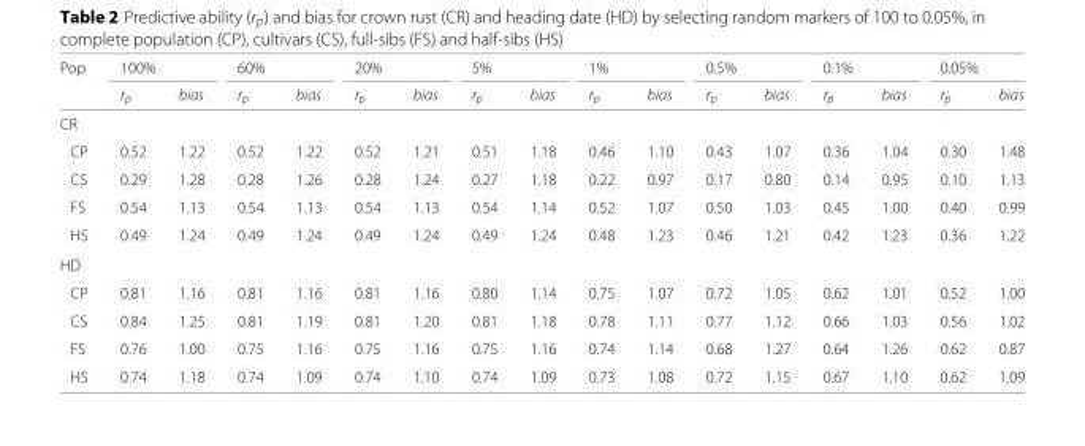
<table><thead><tr><td rowspan="2">Pop</td><td colspan="2">100%</td><td colspan="2">60%</td><td colspan="2">20%</td><td colspan="2">5%</td><td colspan="2">1%</td><td colspan="2">0.5%</td><td colspan="2">0.1%</td><td colspan="2">0.05%</td></tr><tr><td>r<sub>p</sub></td><td>bias</td><td>r<sub>p</sub></td><td>bias</td><td>r<sub>p</sub></td><td>bias</td><td>r<sub>p</sub></td><td>bias</td><td>r<sub>p</sub></td><td>bias</td><td>r<sub>p</sub></td><td>bias</td><td>r<sub>p</sub></td><td>bias</td><td>r<sub>p</sub></td><td>bias</td></tr></thead><tbody><tr><td colspan="17">CR</td></tr><tr><td>CP</td><td>0.52</td><td>1.22</td><td>0.52</td><td>1.22</td><td>0.52</td><td>1.21</td><td>0.51</td><td>1.18</td><td>0.46</td><td>1.10</td><td>0.43</td><td>1.07</td><td>0.36</td><td>1.04</td><td>0.30</td><td>1.48</td></tr><tr><td>CS</td><td>0.29</td><td>1.28</td><td>0.28</td><td>1.26</td><td>0.28</td><td>1.24</td><td>0.27</td><td>1.18</td><td>0.22</td><td>0.97</td><td>0.17</td><td>0.80</td><td>0.14</td><td>0.95</td><td>0.10</td><td>1.13</td></tr><tr><td>FS</td><td>0.54</td><td>1.13</td><td>0.54</td><td>1.13</td><td>0.54</td><td>1.13</td><td>0.54</td><td>1.14</td><td>0.52</td><td>1.07</td><td>0.50</td><td>1.03</td><td>0.45</td><td>1.00</td><td>0.40</td><td>0.99</td></tr><tr><td>HS</td><td>0.49</td><td>1.24</td><td>0.49</td><td>1.24</td><td>0.49</td><td>1.24</td><td>0.49</td><td>1.24</td><td>0.48</td><td>1.23</td><td>0.46</td><td>1.21</td><td>0.42</td><td>1.23</td><td>0.36</td><td>1.22</td></tr><tr><td colspan="17">HD</td></tr><tr><td>CP</td><td>0.81</td><td>1.16</td><td>0.81</td><td>1.16</td><td>0.81</td><td>1.16</td><td>0.80</td><td>1.14</td><td>0.75</td><td>1.07</td><td>0.72</td><td>1.05</td><td>0.62</td><td>1.01</td><td>0.52</td><td>1.00</td></tr><tr><td>CS</td><td>0.84</td><td>1.25</td><td>0.81</td><td>1.19</td><td>0.81</td><td>1.20</td><td>0.81</td><td>1.18</td><td>0.78</td><td>1.11</td><td>0.77</td><td>1.12</td><td>0.66</td><td>1.03</td><td>0.56</td><td>1.02</td></tr><tr><td>FS</td><td>0.76</td><td>1.00</td><td>0.75</td><td>1.16</td><td>0.75</td><td>1.16</td><td>0.75</td><td>1.16</td><td>0.74</td><td>1.14</td><td>0.68</td><td>1.27</td><td>0.64</td><td>1.26</td><td>0.62</td><td>0.87</td></tr><tr><td>HS</td><td>0.74</td><td>1.18</td><td>0.74</td><td>1.09</td><td>0.74</td><td>1.10</td><td>0.74</td><td>1.09</td><td>0.73</td><td>1.08</td><td>0.72</td><td>1.15</td><td>0.67</td><td>1.10</td><td>0.62</td><td>1.09</td></tr></tbody></table>